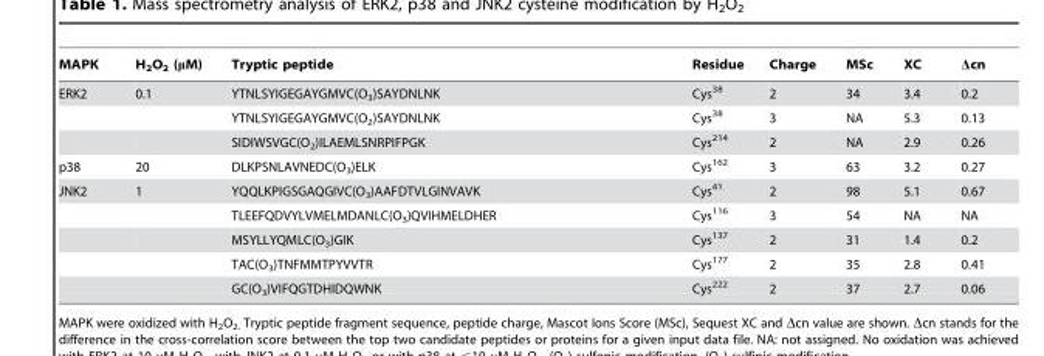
<table><thead><tr><td>MAPK</td><td>H<sub>2</sub>O<sub>2</sub> (μM)</td><td>Tryptic peptide</td><td>Residue</td><td>Charge</td><td>MSc</td><td>XC</td><td>Δcn</td></tr></thead><tbody><tr><td rowspan="3">ERK2</td><td>0.1</td><td>YTNLSYIGEGAYGMVC(O<sub>3</sub>)SAYDNLNK</td><td>Cys<sup>38</sup></td><td>2</td><td>34</td><td>3.4</td><td>0.2</td></tr><tr><td></td><td>YTNLSYIGEGAYGMVC(O<sub>2</sub>)SAYDNLNK</td><td>Cys<sup>38</sup></td><td>3</td><td>NA</td><td>5.3</td><td>0.13</td></tr><tr><td></td><td>SIDIWSVGC(O<sub>2</sub>)ILAEMLSNRPIFPGK</td><td>Cys<sup>214</sup></td><td>2</td><td>NA</td><td>2.9</td><td>0.26</td></tr><tr><td>p38</td><td>20</td><td>DLKPSNLAVNEDC(O<sub>3</sub>)ELK</td><td>Cys<sup>162</sup></td><td>3</td><td>63</td><td>3.2</td><td>0.27</td></tr><tr><td rowspan="5">JNK2</td><td>1</td><td>YQQLKPIGSGAQGIVC(O<sub>3</sub>)AAFDTVLGINVAVK</td><td>Cys<sup>41</sup></td><td>2</td><td>98</td><td>5.1</td><td>0.67</td></tr><tr><td></td><td>TLEEFQDVYLVMELMDANLC(O<sub>3</sub>)QVIHMELDHER</td><td>Cys<sup>116</sup></td><td>3</td><td>54</td><td>NA</td><td>NA</td></tr><tr><td></td><td>MSYLLYQMLC(O<sub>3</sub>)GIK</td><td>Cys<sup>137</sup></td><td>2</td><td>31</td><td>1.4</td><td>0.2</td></tr><tr><td></td><td>TAC(O<sub>3</sub>)TNFMMTPYVVTR</td><td>Cys<sup>177</sup></td><td>2</td><td>35</td><td>2.8</td><td>0.41</td></tr><tr><td></td><td>GC(O<sub>3</sub>)VIFQGTDHIDQWNK</td><td>Cys<sup>222</sup></td><td>2</td><td>37</td><td>2.7</td><td>0.06</td></tr></tbody></table>